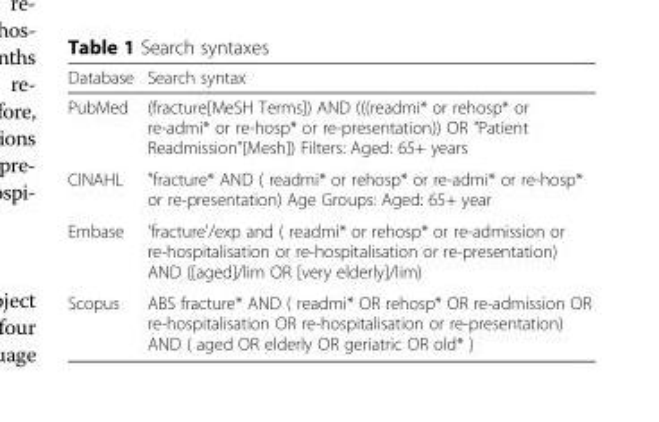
<table><thead><tr><td>Database</td><td>Search syntax</td></tr></thead><tbody><tr><td>PubMed</td><td>(fracture[MeSH Terms]) AND (((readmi* or rehosp* or re-admi* or re-hosp* or re-presentation)) OR &quot;Patient Readmission&quot;[Mesh]) Filters: Aged: 65+ years</td></tr><tr><td>CINAHL</td><td>&quot;fracture* AND ( readmi* or rehosp* or re-admi* or re-hosp* or re-presentation) Age Groups: Aged: 65+ year</td></tr><tr><td>Embase</td><td>&#x27;fracture&#x27;/exp and ( readmi* or rehosp* or re-admission or re-hospitalisation or re-hospitalisation or re-presentation) AND ([aged]/lim OR [very elderly]/lim)</td></tr><tr><td>Scopus</td><td>ABS fracture* AND ( readmi* OR rehosp* OR re-admission OR re-hospitalisation OR re-hospitalisation or re-presentation) AND ( aged OR elderly OR geriatric OR old* )</td></tr></tbody></table>